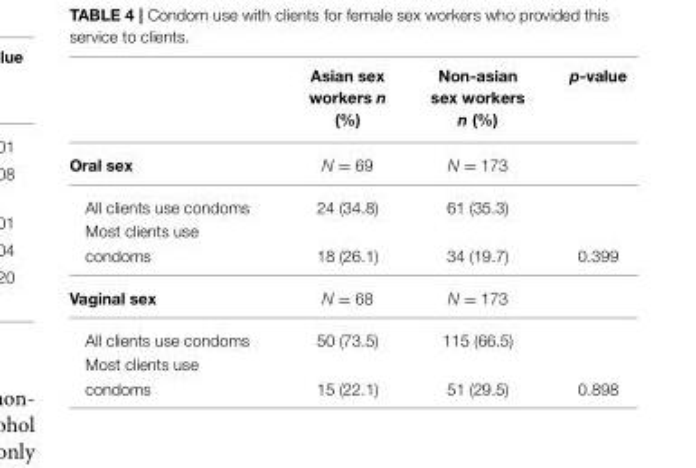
<table><thead><tr><td></td><td>Asian sex workers n (%)</td><td>Non-asian sex workers n (%)</td><td>p-value</td></tr></thead><tbody><tr><td>Oral sex</td><td>N = 69</td><td>N = 173</td><td></td></tr><tr><td>All clients use condoms</td><td>24 (34.8)</td><td>61 (35.3)</td><td></td></tr><tr><td colspan="4">Most clients use</td></tr><tr><td>condoms</td><td>18 (26.1)</td><td>34 (19.7)</td><td>0.399</td></tr><tr><td>Vaginal sex</td><td>N = 68</td><td>N = 173</td><td></td></tr><tr><td>All clients use condoms</td><td>50 (73.5)</td><td>115 (66.5)</td><td></td></tr><tr><td colspan="4">Most clients use</td></tr><tr><td>condoms</td><td>15 (22.1)</td><td>51 (29.5)</td><td>0.898</td></tr></tbody></table>